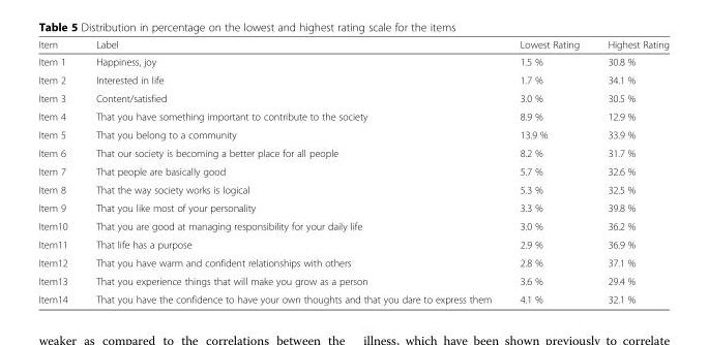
<table><thead><tr><td>Item</td><td>Label</td><td>Lowest Rating</td><td>Highest Rating</td></tr></thead><tbody><tr><td>Item 1</td><td>Happiness, joy</td><td>1.5 %</td><td>30.8 %</td></tr><tr><td>Item 2</td><td>Interested in life</td><td>1.7 %</td><td>34.1 %</td></tr><tr><td>Item 3</td><td>Content/satisfied</td><td>3.0 %</td><td>30.5 %</td></tr><tr><td>Item 4</td><td>That you have something important to contribute to the society</td><td>8.9 %</td><td>12.9 %</td></tr><tr><td>Item 5</td><td>That you belong to a community</td><td>13.9 %</td><td>33.9 %</td></tr><tr><td>Item 6</td><td>That our society is becoming a better place for all people</td><td>8.2 %</td><td>31.7 %</td></tr><tr><td>Item 7</td><td>That people are basically good</td><td>5.7 %</td><td>32.6 %</td></tr><tr><td>Item 8</td><td>That the way society works is logical</td><td>5.3 %</td><td>32.5 %</td></tr><tr><td>Item 9</td><td>That you like most of your personality</td><td>3.3 %</td><td>39.8 %</td></tr><tr><td>Item10</td><td>That you are good at managing responsibility for your daily life</td><td>3.0 %</td><td>36.2 %</td></tr><tr><td>Item11</td><td>That life has a purpose</td><td>2.9 %</td><td>36.9 %</td></tr><tr><td>Item12</td><td>That you have warm and confident relationships with others</td><td>2.8 %</td><td>37.1 %</td></tr><tr><td>Item13</td><td>That you experience things that will make you grow as a person</td><td>3.6 %</td><td>29.4 %</td></tr><tr><td>Item14</td><td>That you have the confidence to have your own thoughts and that you dare to express them</td><td>4.1 %</td><td>32.1 %</td></tr></tbody></table>